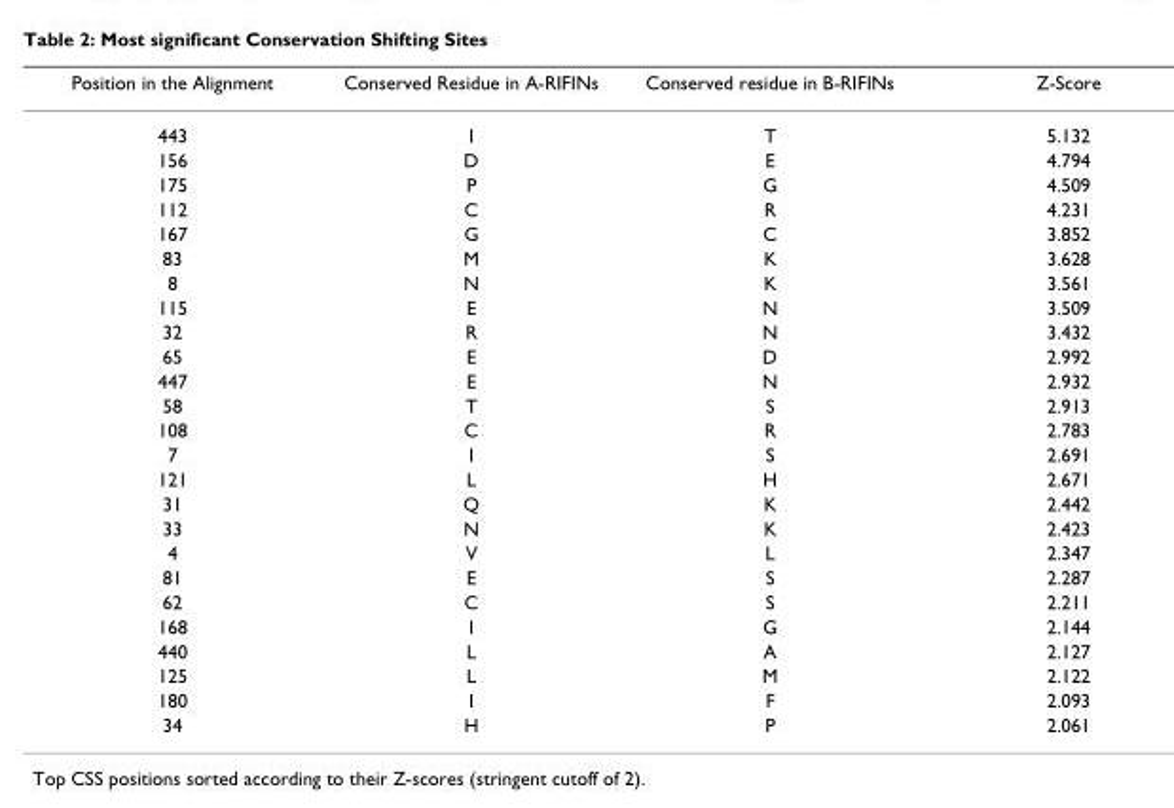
<table><thead><tr><td>Position in the Alignment</td><td>Conserved Residue in A-RIFINs</td><td>Conserved residue in B-RIFINs</td><td>Z-Score</td></tr></thead><tbody><tr><td>443</td><td>I</td><td>T</td><td>5.132</td></tr><tr><td>156</td><td>D</td><td>E</td><td>4.794</td></tr><tr><td>175</td><td>P</td><td>G</td><td>4.509</td></tr><tr><td>112</td><td>C</td><td>R</td><td>4.231</td></tr><tr><td>167</td><td>G</td><td>C</td><td>3.852</td></tr><tr><td>83</td><td>M</td><td>K</td><td>3.628</td></tr><tr><td>8</td><td>N</td><td>K</td><td>3.561</td></tr><tr><td>115</td><td>E</td><td>N</td><td>3.509</td></tr><tr><td>32</td><td>R</td><td>N</td><td>3.432</td></tr><tr><td>65</td><td>E</td><td>D</td><td>2.992</td></tr><tr><td>447</td><td>E</td><td>N</td><td>2.932</td></tr><tr><td>58</td><td>T</td><td>S</td><td>2.913</td></tr><tr><td>108</td><td>C</td><td>R</td><td>2.783</td></tr><tr><td>7</td><td>I</td><td>S</td><td>2.691</td></tr><tr><td>121</td><td>L</td><td>H</td><td>2.671</td></tr><tr><td>31</td><td>Q</td><td>K</td><td>2.442</td></tr><tr><td>33</td><td>N</td><td>K</td><td>2.423</td></tr><tr><td>4</td><td>V</td><td>L</td><td>2.347</td></tr><tr><td>81</td><td>E</td><td>S</td><td>2.287</td></tr><tr><td>62</td><td>C</td><td>S</td><td>2.211</td></tr><tr><td>168</td><td>I</td><td>G</td><td>2.144</td></tr><tr><td>440</td><td>L</td><td>A</td><td>2.127</td></tr><tr><td>125</td><td>L</td><td>M</td><td>2.122</td></tr><tr><td>180</td><td>I</td><td>F</td><td>2.093</td></tr><tr><td>34</td><td>H</td><td>P</td><td>2.061</td></tr></tbody></table>